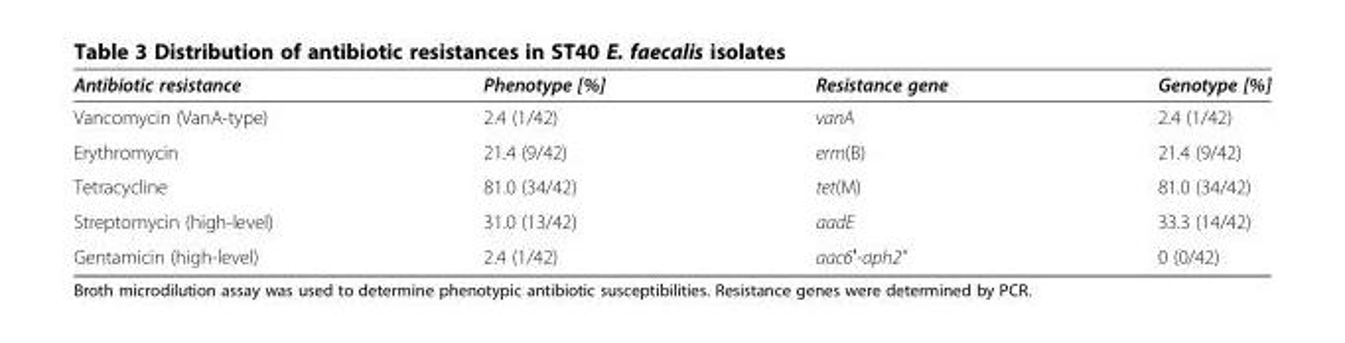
<table><thead><tr><td>Antibiotic resistance</td><td>Phenotype [%]</td><td>Resistance gene</td><td>Genotype [%]</td></tr></thead><tbody><tr><td>Vancomycin (VanA-type)</td><td>2.4 (1/42)</td><td>vanA</td><td>2.4 (1/42)</td></tr><tr><td>Erythromycin</td><td>21.4 (9/42)</td><td>erm(B)</td><td>21.4 (9/42)</td></tr><tr><td>Tetracycline</td><td>81.0 (34/42)</td><td>tet(M)</td><td>81.0 (34/42)</td></tr><tr><td>Streptomycin (high-level)</td><td>31.0 (13/42)</td><td>aadE</td><td>33.3 (14/42)</td></tr><tr><td>Gentamicin (high-level)</td><td>2.4 (1/42)</td><td>aac6′-aph2”</td><td>0 (0/42)</td></tr></tbody></table>